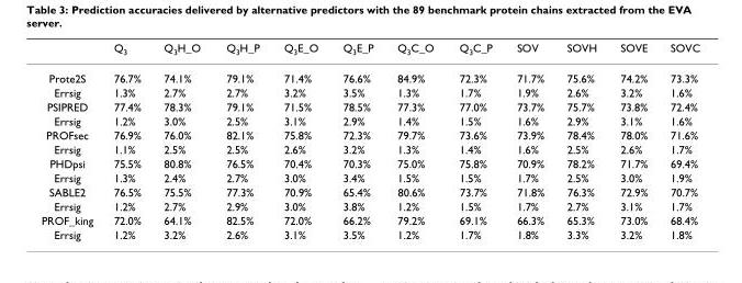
<table><thead><tr><td></td><td>Q<sub>3</sub></td><td>Q<sub>3</sub>H_O</td><td>Q<sub>3</sub>H_P</td><td>Q<sub>3</sub>E_O</td><td>Q<sub>3</sub>E_P</td><td>Q<sub>3</sub>C_O</td><td>Q<sub>3</sub>C_P</td><td>SOV</td><td>SOVH</td><td>SOVE</td><td>SOVC</td></tr></thead><tbody><tr><td>Prote2S</td><td>76.7%</td><td>74.1%</td><td>79.1%</td><td>71.4%</td><td>76.6%</td><td>84.9%</td><td>72.3%</td><td>71.7%</td><td>75.6%</td><td>74.2%</td><td>73.3%</td></tr><tr><td>Errsig</td><td>1.3%</td><td>2.7%</td><td>2.7%</td><td>3.2%</td><td>3.5%</td><td>1.3%</td><td>1.7%</td><td>1.9%</td><td>2.6%</td><td>3.2%</td><td>1.6%</td></tr><tr><td>PSIPRED</td><td>77.4%</td><td>78.3%</td><td>79.1%</td><td>71.5%</td><td>78.5%</td><td>77.3%</td><td>77.0%</td><td>73.7%</td><td>75.7%</td><td>73.8%</td><td>72.4%</td></tr><tr><td>Errsig</td><td>1.2%</td><td>3.0%</td><td>2.5%</td><td>3.1%</td><td>2.9%</td><td>1.4%</td><td>1.5%</td><td>1.6%</td><td>2.9%</td><td>3.1%</td><td>1.6%</td></tr><tr><td>PROFsec</td><td>76.9%</td><td>76.0%</td><td>82.1%</td><td>75.8%</td><td>72.3%</td><td>79.7%</td><td>73.6%</td><td>73.9%</td><td>78.4%</td><td>78.0%</td><td>71.6%</td></tr><tr><td>Errsig</td><td>1.1%</td><td>2.5%</td><td>2.5%</td><td>2.6%</td><td>3.2%</td><td>1.3%</td><td>1.4%</td><td>1.6%</td><td>2.5%</td><td>2.6%</td><td>1.7%</td></tr><tr><td>PHDpsi</td><td>75.5%</td><td>80.8%</td><td>76.5%</td><td>70.4%</td><td>70.3%</td><td>75.0%</td><td>75.8%</td><td>70.9%</td><td>78.2%</td><td>71.7%</td><td>69.4%</td></tr><tr><td>Errsig</td><td>1.3%</td><td>2.4%</td><td>2.7%</td><td>3.0%</td><td>3.4%</td><td>1.5%</td><td>1.5%</td><td>1.7%</td><td>2.5%</td><td>3.0%</td><td>1.9%</td></tr><tr><td>SABLE2</td><td>76.5%</td><td>75.5%</td><td>77.3%</td><td>70.9%</td><td>65.4%</td><td>80.6%</td><td>73.7%</td><td>71.8%</td><td>76.3%</td><td>72.9%</td><td>70.7%</td></tr><tr><td>Errsig</td><td>1.2%</td><td>2.7%</td><td>2.9%</td><td>3.0%</td><td>3.8%</td><td>1.2%</td><td>1.5%</td><td>1.7%</td><td>2.7%</td><td>3.1%</td><td>1.7%</td></tr><tr><td>PROF_king</td><td>72.0%</td><td>64.1%</td><td>82.5%</td><td>72.0%</td><td>66.2%</td><td>79.2%</td><td>69.1%</td><td>66.3%</td><td>65.3%</td><td>73.0%</td><td>68.4%</td></tr><tr><td>Errsig</td><td>1.2%</td><td>3.2%</td><td>2.6%</td><td>3.1%</td><td>3.5%</td><td>1.2%</td><td>1.7%</td><td>1.8%</td><td>3.3%</td><td>3.2%</td><td>1.8%</td></tr></tbody></table>